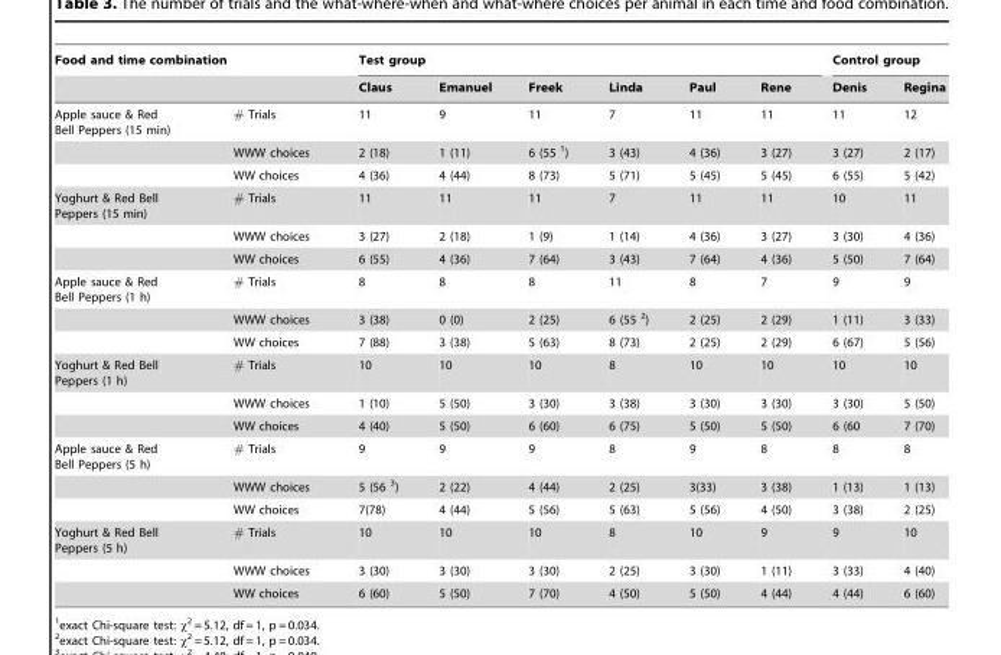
<table><thead><tr><td rowspan="2">Food and time combination</td><td rowspan="2"></td><td colspan="6">Test group</td><td colspan="2">Control group</td></tr><tr><td>Claus</td><td>Emanuel</td><td>Freek</td><td>Linda</td><td>Paul</td><td>Rene</td><td>Denis</td><td>Regina</td></tr></thead><tbody><tr><td rowspan="3">Apple sauce &amp; Red Bell Peppers (15 min)</td><td># Trials</td><td>11</td><td>9</td><td>11</td><td>7</td><td>11</td><td>11</td><td>11</td><td>12</td></tr><tr><td>WWW choices</td><td>2 (18)</td><td>1 (11)</td><td>6 (55 1)</td><td>3 (43)</td><td>4 (36)</td><td>3 (27)</td><td>3 (27)</td><td>2 (17)</td></tr><tr><td>WW choices</td><td>4 (36)</td><td>4 (44)</td><td>8 (73)</td><td>5 (71)</td><td>5 (45)</td><td>5 (45)</td><td>6 (55)</td><td>5 (42)</td></tr><tr><td rowspan="3">Yoghurt &amp; Red Bell Peppers (15 min)</td><td># Trials</td><td>11</td><td>11</td><td>11</td><td>7</td><td>11</td><td>11</td><td>10</td><td>11</td></tr><tr><td>WWW choices</td><td>3 (27)</td><td>2 (18)</td><td>1 (9)</td><td>1 (14)</td><td>4 (36)</td><td>3 (27)</td><td>3 (30)</td><td>4 (36)</td></tr><tr><td>WW choices</td><td>6 (55)</td><td>4 (36)</td><td>7 (64)</td><td>3 (43)</td><td>7 (64)</td><td>4 (36)</td><td>5 (50)</td><td>7 (64)</td></tr><tr><td rowspan="3">Apple sauce &amp; Red Bell Peppers (1 h)</td><td># Trials</td><td>8</td><td>8</td><td>8</td><td>11</td><td>8</td><td>7</td><td>9</td><td>9</td></tr><tr><td>WWW choices</td><td>3 (38)</td><td>0 (0)</td><td>2 (25)</td><td>6 (55 2)</td><td>2 (25)</td><td>2 (29)</td><td>1 (11)</td><td>3 (33)</td></tr><tr><td>WW choices</td><td>7 (88)</td><td>3 (38)</td><td>5 (63)</td><td>8 (73)</td><td>2 (25)</td><td>2 (29)</td><td>6 (67)</td><td>5 (56)</td></tr><tr><td rowspan="3">Yoghurt &amp; Red Bell Peppers (1 h)</td><td># Trials</td><td>10</td><td>10</td><td>10</td><td>8</td><td>10</td><td>10</td><td>10</td><td>10</td></tr><tr><td>WWW choices</td><td>1 (10)</td><td>5 (50)</td><td>3 (30)</td><td>3 (38)</td><td>3 (30)</td><td>3 (30)</td><td>3 (30)</td><td>5 (50)</td></tr><tr><td>WW choices</td><td>4 (40)</td><td>5 (50)</td><td>6 (60)</td><td>6 (75)</td><td>5 (50)</td><td>5 (50)</td><td>6 (60</td><td>7 (70)</td></tr><tr><td rowspan="3">Apple sauce &amp; Red Bell Peppers (5 h)</td><td># Trials</td><td>9</td><td>9</td><td>9</td><td>8</td><td>9</td><td>8</td><td>8</td><td>8</td></tr><tr><td>WWW choices</td><td>5 (56 3)</td><td>2 (22)</td><td>4 (44)</td><td>2 (25)</td><td>3(33)</td><td>3 (38)</td><td>1 (13)</td><td>1 (13)</td></tr><tr><td>WW choices</td><td>7(78)</td><td>4 (44)</td><td>5 (56)</td><td>5 (63)</td><td>5 (56)</td><td>4 (50)</td><td>3 (38)</td><td>2 (25)</td></tr><tr><td rowspan="3">Yoghurt &amp; Red Bell Peppers (5 h)</td><td># Trials</td><td>10</td><td>10</td><td>10</td><td>8</td><td>10</td><td>9</td><td>9</td><td>10</td></tr><tr><td>WWW choices</td><td>3 (30)</td><td>3 (30)</td><td>3 (30)</td><td>2 (25)</td><td>3 (30)</td><td>1 (11)</td><td>3 (33)</td><td>4 (40)</td></tr><tr><td>WW choices</td><td>6 (60)</td><td>5 (50)</td><td>7 (70)</td><td>4 (50)</td><td>5 (50)</td><td>4 (44)</td><td>4 (44)</td><td>6 (60)</td></tr></tbody></table>